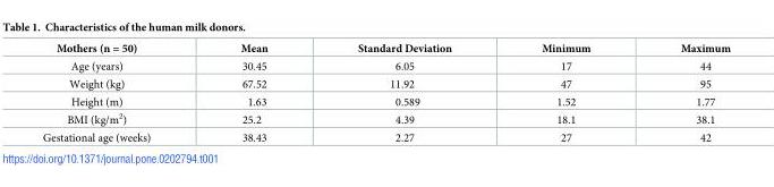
<table><thead><tr><td>Mothers (n = 50)</td><td>Mean</td><td>Standard Deviation</td><td>Minimum</td><td>Maximum</td></tr></thead><tbody><tr><td>Age (years)</td><td>30.45</td><td>6.05</td><td>17</td><td>44</td></tr><tr><td>Weight (kg)</td><td>67.52</td><td>11.92</td><td>47</td><td>95</td></tr><tr><td>Height (m)</td><td>1.63</td><td>0.589</td><td>1.52</td><td>1.77</td></tr><tr><td>BMI (kg/m<sup>2</sup>)</td><td>25.2</td><td>4.39</td><td>18.1</td><td>38.1</td></tr><tr><td>Gestational age (weeks)</td><td>38.43</td><td>2.27</td><td>27</td><td>42</td></tr></tbody></table>